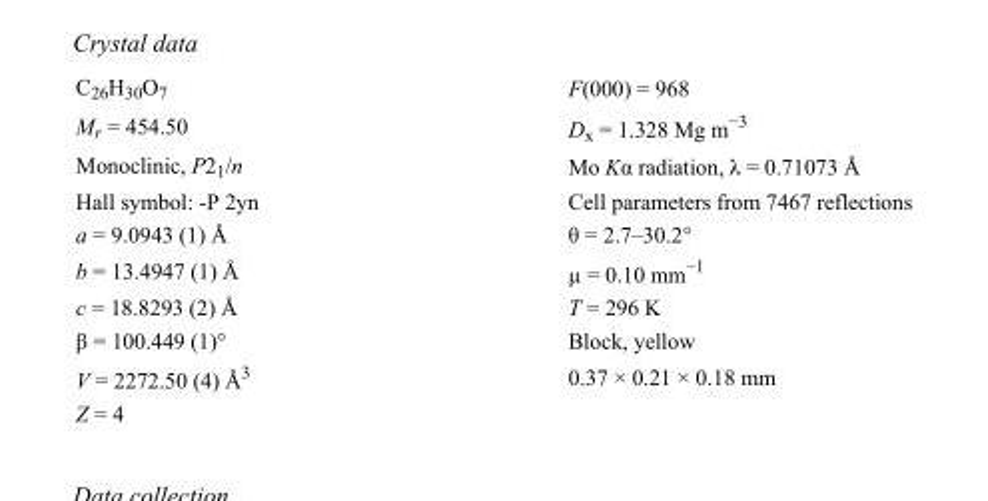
<table><tbody><tr><td>C<sub>26</sub>H<sub>30</sub>O<sub>7</sub></td><td>F(000) = 968</td></tr><tr><td>M<sub>r</sub> = 454.50</td><td>D<sub>x</sub> = 1.328 Mg m<sup>−3</sup></td></tr><tr><td>Monoclinic, P2<sub>1</sub>/n</td><td>Mo Kα radiation, λ = 0.71073 Å</td></tr><tr><td>Hall symbol: -P 2yn</td><td>Cell parameters from 7467 reflections</td></tr><tr><td>a = 9.0943 (1) Å</td><td>θ = 2.7–30.2°</td></tr><tr><td>b = 13.4947 (1) Å</td><td>µ = 0.10 mm<sup>−1</sup></td></tr><tr><td>c = 18.8293 (2) Å</td><td>T = 296 K</td></tr><tr><td>β = 100.449 (1)°</td><td>Block, yellow</td></tr><tr><td>V = 2272.50 (4) Å<sup>3</sup></td><td>0.37 × 0.21 × 0.18 mm</td></tr><tr><td>Z = 4</td><td></td></tr></tbody></table>